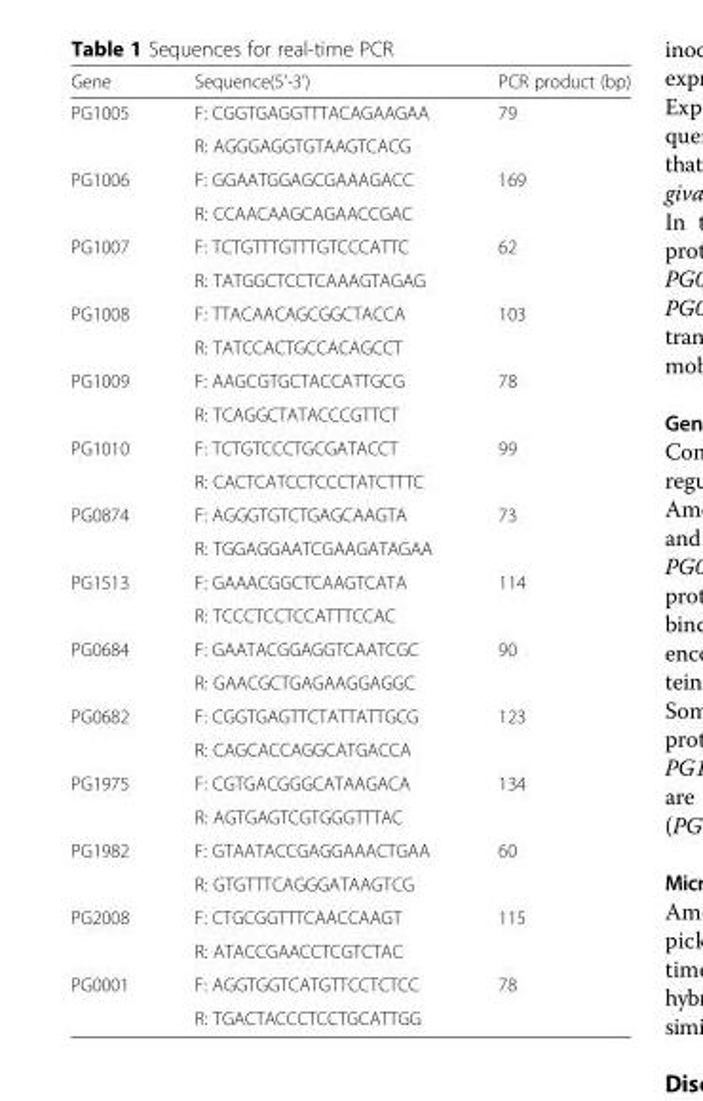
<table><thead><tr><td>Gene</td><td>Sequence(5’-3’)</td><td>PCR product (bp)</td></tr></thead><tbody><tr><td rowspan="2">PG1005</td><td>F: CGGTGAGGTTTACAGAAGAA</td><td>79</td></tr><tr><td>R: AGGGAGGTGTAAGTCACG</td><td></td></tr><tr><td rowspan="2">PG1006</td><td>F: GGAATGGAGCGAAAGACC</td><td>169</td></tr><tr><td>R: CCAACAAGCAGAACCGAC</td><td></td></tr><tr><td rowspan="2">PG1007</td><td>F: TCTGTTTGTTTGTCCCATTC</td><td>62</td></tr><tr><td>R: TATGGCTCCTCAAAGTAGAG</td><td></td></tr><tr><td rowspan="2">PG1008</td><td>F: TTACAACAGCGGCTACCA</td><td>103</td></tr><tr><td>R: TATCCACTGCCACAGCCT</td><td></td></tr><tr><td rowspan="2">PG1009</td><td>F: AAGCGTGCTACCATTGCG</td><td>78</td></tr><tr><td>R: TCAGGCTATACCCGTTCT</td><td></td></tr><tr><td rowspan="2">PG1010</td><td>F: TCTGTCCCTGCGATACCT</td><td>99</td></tr><tr><td>R: CACTCATCCTCCCTATCTTTC</td><td></td></tr><tr><td rowspan="2">PG0874</td><td>F: AGGGTGTCTGAGCAAGTA</td><td>73</td></tr><tr><td>R: TGGAGGAATCGAAGATAGAA</td><td></td></tr><tr><td rowspan="2">PG1513</td><td>F: GAAACGGCTCAAGTCATA</td><td>114</td></tr><tr><td>R: TCCCTCCTCCATTTCCAC</td><td></td></tr><tr><td rowspan="2">PG0684</td><td>F: GAATACGGAGGTCAATCGC</td><td>90</td></tr><tr><td>R: GAACGCTGAGAAGGAGGC</td><td></td></tr><tr><td rowspan="2">PG0682</td><td>F: CGGTGAGTTCTATTATTGCG</td><td>123</td></tr><tr><td>R: CAGCACCAGGCATGACCA</td><td></td></tr><tr><td rowspan="2">PG1975</td><td>F: CGTGACGGGCATAAGACA</td><td>134</td></tr><tr><td>R: AGTGAGTCGTGGGTTTAC</td><td></td></tr><tr><td rowspan="2">PG1982</td><td>F: GTAATACCGAGGAAACTGAA</td><td>60</td></tr><tr><td>R: GTGTTTCAGGGATAAGTCG</td><td></td></tr><tr><td rowspan="2">PG2008</td><td>F: CTGCGGTTTCAACCAAGT</td><td>115</td></tr><tr><td>R: ATACCGAACCTCGTCTAC</td><td></td></tr><tr><td rowspan="2">PG0001</td><td>F: AGGTGGTCATGTTCCTCTCC</td><td>78</td></tr><tr><td>R: TGACTACCCTCCTGCATTGG</td><td></td></tr></tbody></table>